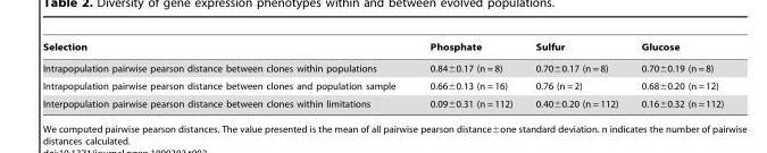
<table><thead><tr><td>Selection</td><td>Phosphate</td><td>Sulfur</td><td>Glucose</td></tr></thead><tbody><tr><td>Intrapopulation pairwise pearson distance between clones within populations</td><td>0.84±0.17 (n = 8)</td><td>0.70±0.17 (n = 8)</td><td>0.70±0.19 (n = 8)</td></tr><tr><td>Intrapopulation pairwise pearson distance between clones and population sample</td><td>0.66±0.13 (n = 16)</td><td>0.76 (n = 2)</td><td>0.68±0.20 (n = 12)</td></tr><tr><td>Interpopulation pairwise pearson distance between clones within limitations</td><td>0.09±0.31 (n = 112)</td><td>0.40±0.20 (n = 112)</td><td>0.16±0.32 (n = 112)</td></tr></tbody></table>